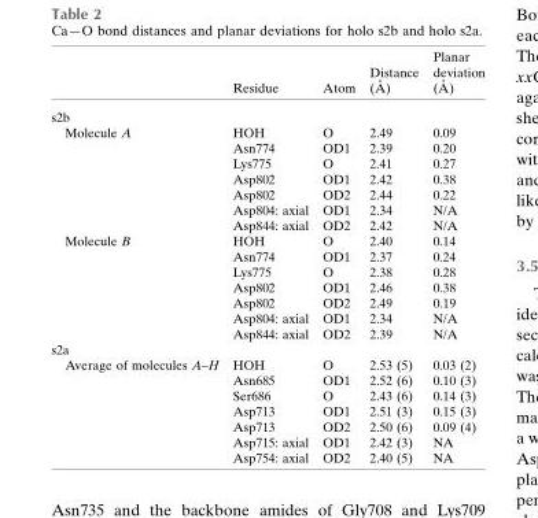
<table><thead><tr><td></td><td>Residue</td><td>Atom</td><td>Distance (A˚ )</td><td>Planar deviation (A˚ )</td></tr></thead><tbody><tr><td colspan="5">s2b</td></tr><tr><td rowspan="7">Molecule A</td><td>HOH</td><td>O</td><td>2.49</td><td>0.09</td></tr><tr><td>Asn774</td><td>OD1</td><td>2.39</td><td>0.20</td></tr><tr><td>Lys775</td><td>O</td><td>2.41</td><td>0.27</td></tr><tr><td>Asp802</td><td>OD1</td><td>2.42</td><td>0.38</td></tr><tr><td>Asp802</td><td>OD2</td><td>2.44</td><td>0.22</td></tr><tr><td>Asp804: axial</td><td>OD1</td><td>2.34</td><td>N/A</td></tr><tr><td>Asp844: axial</td><td>OD2</td><td>2.42</td><td>N/A</td></tr><tr><td rowspan="7">Molecule B</td><td>HOH</td><td>O</td><td>2.40</td><td>0.14</td></tr><tr><td>Asn774</td><td>OD1</td><td>2.37</td><td>0.24</td></tr><tr><td>Lys775</td><td>O</td><td>2.38</td><td>0.28</td></tr><tr><td>Asp802</td><td>OD1</td><td>2.46</td><td>0.38</td></tr><tr><td>Asp802</td><td>OD2</td><td>2.49</td><td>0.19</td></tr><tr><td>Asp804: axial</td><td>OD1</td><td>2.34</td><td>N/A</td></tr><tr><td>Asp844: axial</td><td>OD2</td><td>2.39</td><td>N/A</td></tr><tr><td colspan="5">s2a</td></tr><tr><td rowspan="7">Average of molecules A–H</td><td>HOH</td><td>O</td><td>2.53 (5)</td><td>0.03 (2)</td></tr><tr><td>Asn685</td><td>OD1</td><td>2.52 (6)</td><td>0.10 (3)</td></tr><tr><td>Ser686</td><td>O</td><td>2.43 (6)</td><td>0.14 (3)</td></tr><tr><td>Asp713</td><td>OD1</td><td>2.51 (3)</td><td>0.15 (3)</td></tr><tr><td>Asp713</td><td>OD2</td><td>2.50 (6)</td><td>0.09 (4)</td></tr><tr><td>Asp715: axial</td><td>OD1</td><td>2.42 (3)</td><td>NA</td></tr><tr><td>Asp754: axial</td><td>OD2</td><td>2.40 (5)</td><td>NA</td></tr></tbody></table>